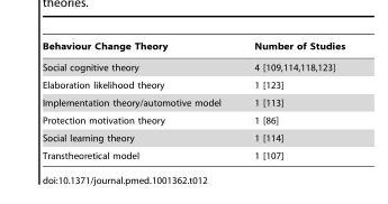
<table><thead><tr><td>Behaviour Change Theory</td><td>Number of Studies</td></tr></thead><tbody><tr><td>Social cognitive theory</td><td>4 [109,114,118,123]</td></tr><tr><td>Elaboration likelihood theory</td><td>1 [123]</td></tr><tr><td>Implementation theory/automotive model</td><td>1 [113]</td></tr><tr><td>Protection motivation theory</td><td>1 [86]</td></tr><tr><td>Social learning theory</td><td>1 [114]</td></tr><tr><td>Transtheoretical model</td><td>1 [107]</td></tr></tbody></table>